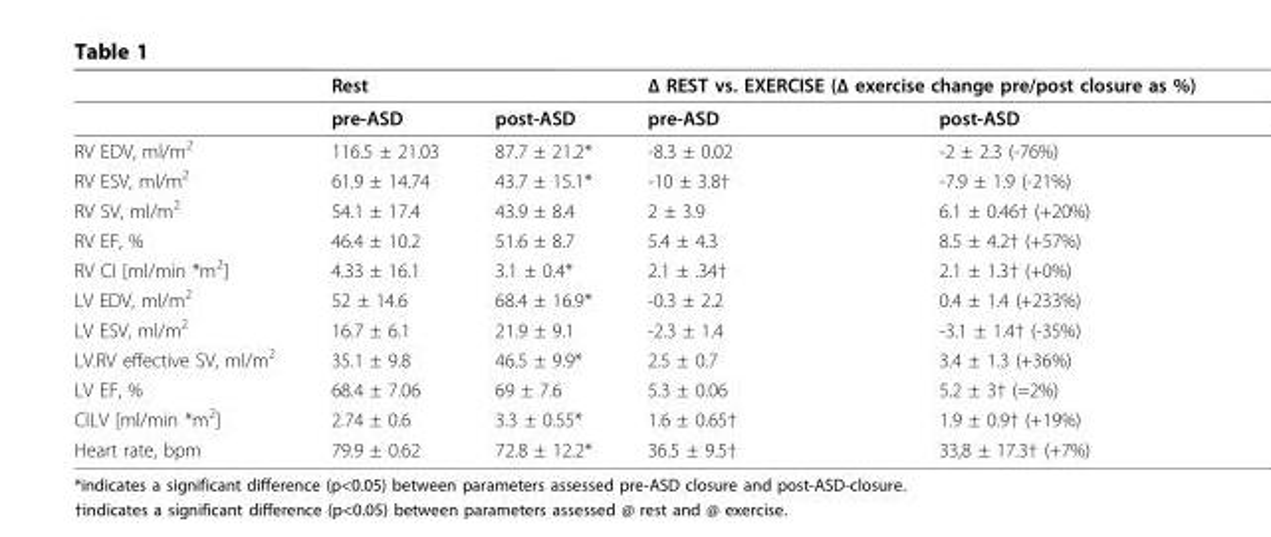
<table><thead><tr><td rowspan="2"></td><td colspan="2">Rest</td><td colspan="2">Δ REST vs. EXERCISE (Δ exercise change pre/post closure as %)</td></tr><tr><td>pre-ASD</td><td>post-ASD</td><td>pre-ASD</td><td>post-ASD</td></tr></thead><tbody><tr><td>RV EDV, ml/m<sup>2</sup></td><td>116.5 ± 21.03</td><td>87.7 ± 21.2*</td><td>-8.3 ± 0.02</td><td>-2 ± 2.3 (-76%)</td></tr><tr><td>RV ESV, ml/m<sup>2</sup></td><td>61.9 ± 14.74</td><td>43.7 ± 15.1*</td><td>-10 ± 3.8†</td><td>-7.9 ± 1.9 (-21%)</td></tr><tr><td>RV SV, ml/m<sup>2</sup></td><td>54.1 ± 17.4</td><td>43.9 ± 8.4</td><td>2 ± 3.9</td><td>6.1 ± 0.46† (+20%)</td></tr><tr><td>RV EF, %</td><td>46.4 ± 10.2</td><td>51.6 ± 8.7</td><td>5.4 ± 4.3</td><td>8.5 ± 4.2† (+57%)</td></tr><tr><td>RV CI [ml/min *m<sup>2</sup>]</td><td>4.33 ± 16.1</td><td>3.1 ± 0.4*</td><td>2.1 ± .34†</td><td>2.1 ± 1.3† (+0%)</td></tr><tr><td>LV EDV, ml/m<sup>2</sup></td><td>52 ± 14.6</td><td>68.4 ± 16.9*</td><td>-0.3 ± 2.2</td><td>0.4 ± 1.4 (+233%)</td></tr><tr><td>LV ESV, ml/m<sup>2</sup></td><td>16.7 ± 6.1</td><td>21.9 ± 9.1</td><td>-2.3 ± 1.4</td><td>-3.1 ± 1.4† (-35%)</td></tr><tr><td>LV.RV effective SV, ml/m<sup>2</sup></td><td>35.1 ± 9.8</td><td>46.5 ± 9.9*</td><td>2.5 ± 0.7</td><td>3.4 ± 1.3 (+36%)</td></tr><tr><td>LV EF, %</td><td>68.4 ± 7.06</td><td>69 ± 7.6</td><td>5.3 ± 0.06</td><td>5.2 ± 3† (=2%)</td></tr><tr><td>CILV [ml/min *m<sup>2</sup>]</td><td>2.74 ± 0.6</td><td>3.3 ± 0.55*</td><td>1.6 ± 0.65†</td><td>1.9 ± 0.9† (+19%)</td></tr><tr><td>Heart rate, bpm</td><td>79.9 ± 0.62</td><td>72.8 ± 12.2*</td><td>36.5 ± 9.5†</td><td>33,8 ± 17.3† (+7%)</td></tr></tbody></table>